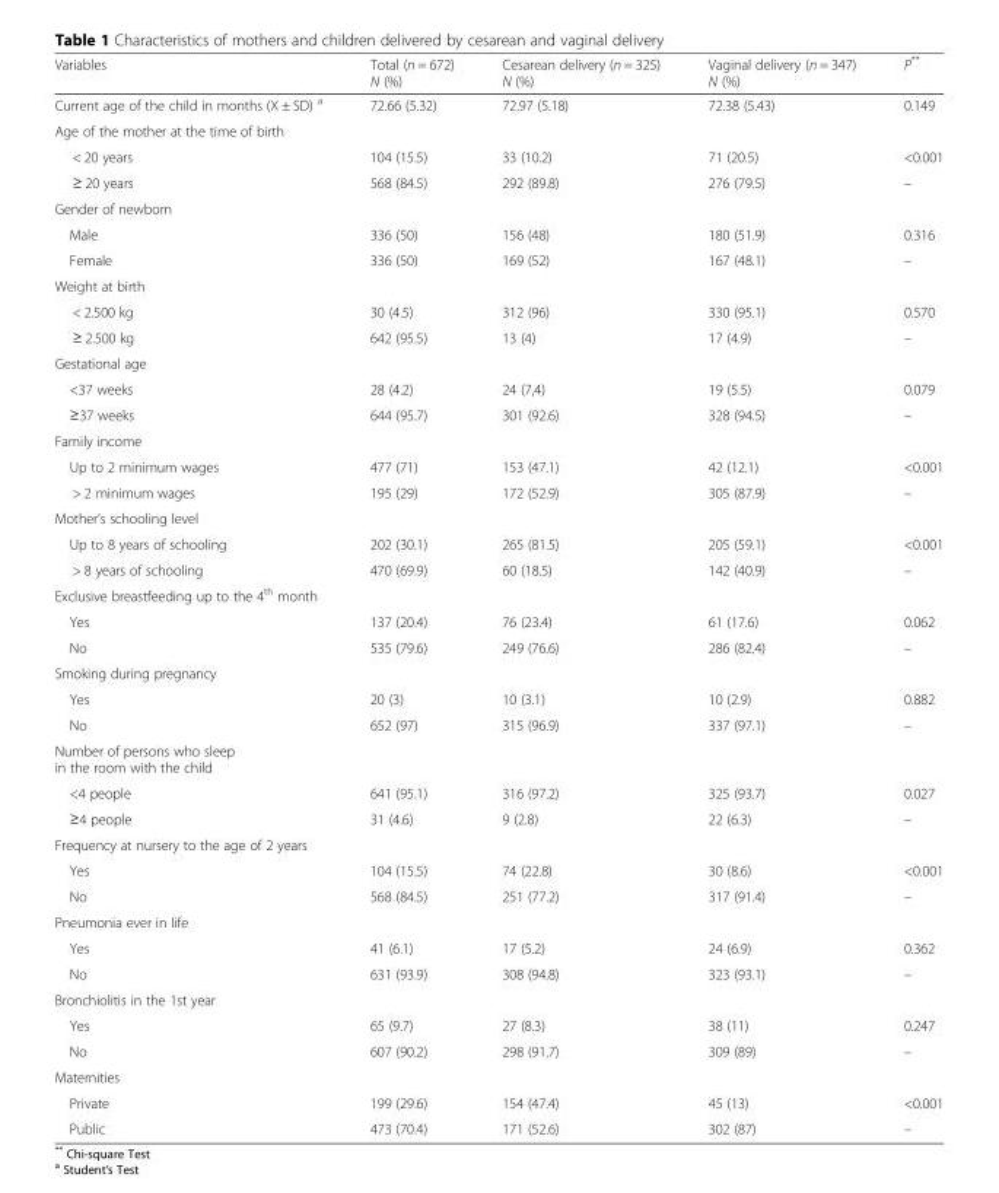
<table><thead><tr><td>Variables</td><td>Total (n = 672) N (%)</td><td>Cesarean delivery (n = 325) N (%)</td><td>Vaginal delivery (n = 347) N (%)</td><td>P**</td></tr></thead><tbody><tr><td>Current age of the child in months (X ± SD) <sup>a</sup></td><td>72.66 (5.32)</td><td>72.97 (5.18)</td><td>72.38 (5.43)</td><td>0.149</td></tr><tr><td colspan="5">Age of the mother at the time of birth</td></tr><tr><td>&lt; 20 years</td><td>104 (15.5)</td><td>33 (10.2)</td><td>71 (20.5)</td><td>&lt;0.001</td></tr><tr><td>≥ 20 years</td><td>568 (84.5)</td><td>292 (89.8)</td><td>276 (79.5)</td><td>–</td></tr><tr><td colspan="5">Gender of newborn</td></tr><tr><td>Male</td><td>336 (50)</td><td>156 (48)</td><td>180 (51.9)</td><td>0.316</td></tr><tr><td>Female</td><td>336 (50)</td><td>169 (52)</td><td>167 (48.1)</td><td>–</td></tr><tr><td colspan="5">Weight at birth</td></tr><tr><td>&lt; 2.500 kg</td><td>30 (4.5)</td><td>312 (96)</td><td>330 (95.1)</td><td>0.570</td></tr><tr><td>≥ 2.500 kg</td><td>642 (95.5)</td><td>13 (4)</td><td>17 (4.9)</td><td>–</td></tr><tr><td colspan="5">Gestational age</td></tr><tr><td>&lt;37 weeks</td><td>28 (4.2)</td><td>24 (7,4)</td><td>19 (5.5)</td><td>0.079</td></tr><tr><td>≥37 weeks</td><td>644 (95.7)</td><td>301 (92.6)</td><td>328 (94.5)</td><td>–</td></tr><tr><td colspan="5">Family income</td></tr><tr><td>Up to 2 minimum wages</td><td>477 (71)</td><td>153 (47.1)</td><td>42 (12.1)</td><td>&lt;0.001</td></tr><tr><td>&gt; 2 minimum wages</td><td>195 (29)</td><td>172 (52.9)</td><td>305 (87.9)</td><td>–</td></tr><tr><td colspan="5">Mother’s schooling level</td></tr><tr><td>Up to 8 years of schooling</td><td>202 (30.1)</td><td>265 (81.5)</td><td>205 (59.1)</td><td>&lt;0.001</td></tr><tr><td>&gt; 8 years of schooling</td><td>470 (69.9)</td><td>60 (18.5)</td><td>142 (40.9)</td><td>–</td></tr><tr><td colspan="5">Exclusive breastfeeding up to the 4<sup>th</sup> month</td></tr><tr><td>Yes</td><td>137 (20.4)</td><td>76 (23.4)</td><td>61 (17.6)</td><td>0.062</td></tr><tr><td>No</td><td>535 (79.6)</td><td>249 (76.6)</td><td>286 (82.4)</td><td>–</td></tr><tr><td colspan="5">Smoking during pregnancy</td></tr><tr><td>Yes</td><td>20 (3)</td><td>10 (3.1)</td><td>10 (2.9)</td><td>0.882</td></tr><tr><td>No</td><td>652 (97)</td><td>315 (96.9)</td><td>337 (97.1)</td><td>–</td></tr><tr><td colspan="5">Number of persons who sleep in the room with the child</td></tr><tr><td>&lt;4 people</td><td>641 (95.1)</td><td>316 (97.2)</td><td>325 (93.7)</td><td>0.027</td></tr><tr><td>≥4 people</td><td>31 (4.6)</td><td>9 (2.8)</td><td>22 (6.3)</td><td>–</td></tr><tr><td colspan="5">Frequency at nursery to the age of 2 years</td></tr><tr><td>Yes</td><td>104 (15.5)</td><td>74 (22.8)</td><td>30 (8.6)</td><td>&lt;0.001</td></tr><tr><td>No</td><td>568 (84.5)</td><td>251 (77.2)</td><td>317 (91.4)</td><td>–</td></tr><tr><td colspan="5">Pneumonia ever in life</td></tr><tr><td>Yes</td><td>41 (6.1)</td><td>17 (5.2)</td><td>24 (6.9)</td><td>0.362</td></tr><tr><td>No</td><td>631 (93.9)</td><td>308 (94.8)</td><td>323 (93.1)</td><td>–</td></tr><tr><td colspan="5">Bronchiolitis in the 1st year</td></tr><tr><td>Yes</td><td>65 (9.7)</td><td>27 (8.3)</td><td>38 (11)</td><td>0.247</td></tr><tr><td>No</td><td>607 (90.2)</td><td>298 (91.7)</td><td>309 (89)</td><td>–</td></tr><tr><td colspan="5">Maternities</td></tr><tr><td>Private</td><td>199 (29.6)</td><td>154 (47.4)</td><td>45 (13)</td><td>&lt;0.001</td></tr><tr><td>Public</td><td>473 (70.4)</td><td>171 (52.6)</td><td>302 (87)</td><td>–</td></tr></tbody></table>